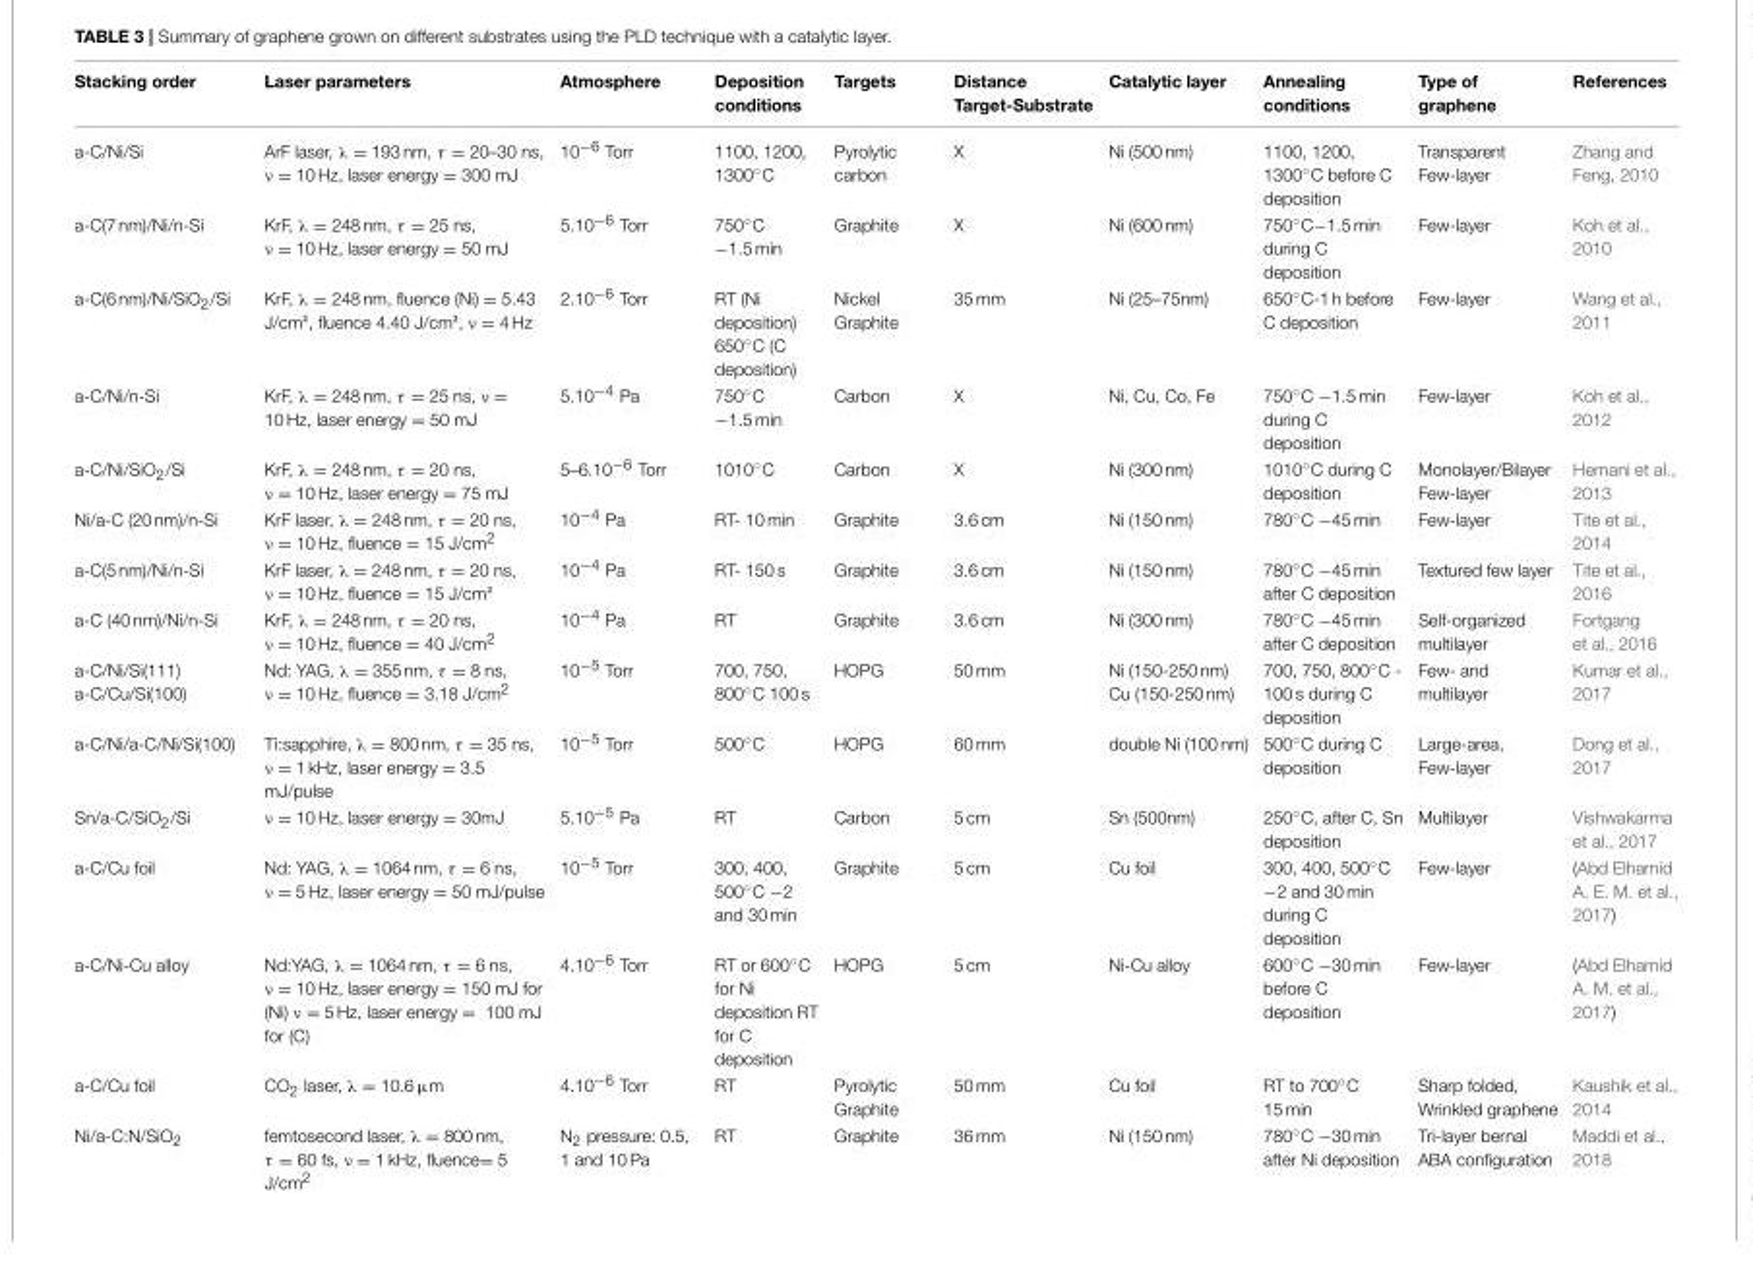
<table><thead><tr><td>Stacking order</td><td>Laser parameters</td><td>Atmosphere</td><td>Deposition conditions</td><td>Targets</td><td>Distance Target-Substrate</td><td>Catalytic layer</td><td>Annealing conditions</td><td>Type of graphene</td><td>References</td></tr></thead><tbody><tr><td>a-C/Ni/Si</td><td>ArF laser, λ = 193 nm, τ = 20–30 ns, ν = 10 Hz, laser energy = 300 mJ</td><td>10<sup>−6</sup> Torr</td><td>1100, 1200, 1300◦C</td><td>Pyrolytic carbon</td><td>X</td><td>Ni (500 nm)</td><td>1100, 1200, 1300◦C before C deposition</td><td>Transparent Few-layer</td><td>Zhang and Feng, 2010</td></tr><tr><td>a-C(7 nm)/Ni/n-Si</td><td>KrF, λ = 248 nm, τ = 25 ns, ν = 10 Hz, laser energy = 50 mJ</td><td>5.10<sup>−6</sup> Torr</td><td>750◦C −1.5 min</td><td>Graphite</td><td>X</td><td>Ni (600 nm)</td><td>750◦C−1.5 min during C deposition</td><td>Few-layer</td><td>Koh et al., 2010</td></tr><tr><td>a-C(6 nm)/Ni/SiO<sub>2</sub>/Si</td><td>KrF, λ = 248 nm, fluence (Ni) = 5.43 J/cm², fluence 4.40 J/cm², ν = 4 Hz</td><td>2.10<sup>−6</sup> Torr</td><td>RT (Ni deposition) 650◦C (C deposition)</td><td>Nickel Graphite</td><td>35 mm</td><td>Ni (25–75nm)</td><td>650◦C-1 h before C deposition</td><td>Few-layer</td><td>Wang et al., 2011</td></tr><tr><td>a-C/Ni/n-Si</td><td>KrF, λ = 248 nm, τ = 25 ns, ν = 10 Hz, laser energy = 50 mJ</td><td>5.10<sup>−4</sup> Pa</td><td>750◦C −1.5 min</td><td>Carbon</td><td>X</td><td>Ni, Cu, Co, Fe</td><td>750◦C −1.5 min during C deposition</td><td>Few-layer</td><td>Koh et al., 2012</td></tr><tr><td>a-C/Ni/SiO<sub>2</sub>/Si</td><td>KrF, λ = 248 nm, τ = 20 ns, ν = 10 Hz, laser energy = 75 mJ</td><td>5–6.10<sup>−6</sup> Torr</td><td>1010◦C</td><td>Carbon</td><td>X</td><td>Ni (300 nm)</td><td>1010◦C during C deposition</td><td>Monolayer/Bilayer Few-layer</td><td>Hemani et al., 2013</td></tr><tr><td>Ni/a-C (20 nm)/n-Si</td><td>KrF laser, λ = 248 nm, τ = 20 ns, ν = 10 Hz, fluence = 15 J/cm<sup>2</sup></td><td>10<sup>−4</sup> Pa</td><td>RT- 10 min</td><td>Graphite</td><td>3.6 cm</td><td>Ni (150 nm)</td><td>780◦C −45 min</td><td>Few-layer</td><td>Tite et al., 2014</td></tr><tr><td>a-C(5 nm)/Ni/n-Si</td><td>KrF laser, λ = 248 nm, τ = 20 ns, ν = 10 Hz, fluence = 15 J/cm²</td><td>10<sup>−4</sup> Pa</td><td>RT- 150 s</td><td>Graphite</td><td>3.6 cm</td><td>Ni (150 nm)</td><td>780◦C −45 min after C deposition</td><td>Textured few layer</td><td>Tite et al., 2016</td></tr><tr><td>a-C (40 nm)/Ni/n-Si</td><td>KrF, λ = 248 nm, τ = 20 ns, ν = 10 Hz, fluence = 40 J/cm<sup>2</sup></td><td>10<sup>−4</sup> Pa</td><td>RT</td><td>Graphite</td><td>3.6 cm</td><td>Ni (300 nm)</td><td>780◦C −45 min after C deposition</td><td>Self-organized multilayer</td><td>Fortgang et al., 2016</td></tr><tr><td>a-C/Ni/Si(111) a-C/Cu/Si(100)</td><td>Nd: YAG, λ = 355 nm, τ = 8 ns, ν = 10 Hz, fluence = 3.18 J/cm<sup>2</sup></td><td>10<sup>−5</sup> Torr</td><td>700, 750, 800◦C 100 s</td><td>HOPG</td><td>50 mm</td><td>Ni (150-250 nm) Cu (150-250 nm)</td><td>700, 750, 800◦C - 100 s during C deposition</td><td>Few- and multilayer</td><td>Kumar et al., 2017</td></tr><tr><td>a-C/Ni/a-C/Ni/Si(100)</td><td>Ti:sapphire, λ = 800 nm, τ = 35 ns, ν = 1 kHz, laser energy = 3.5 mJ/pulse</td><td>10<sup>−5</sup> Torr</td><td>500◦C</td><td>HOPG</td><td>60 mm</td><td>double Ni (100 nm)</td><td>500◦C during C deposition</td><td>Large-area, Few-layer</td><td>Dong et al., 2017</td></tr><tr><td>Sn/a-C/SiO<sub>2</sub>/Si</td><td>ν = 10 Hz, laser energy = 30mJ</td><td>5.10<sup>−5</sup> Pa</td><td>RT</td><td>Carbon</td><td>5 cm</td><td>Sn (500nm)</td><td>250◦C, after C, Sn deposition</td><td>Multilayer</td><td>Vishwakarma et al., 2017</td></tr><tr><td>a-C/Cu foil</td><td>Nd: YAG, λ = 1064 nm, τ = 6 ns, ν = 5 Hz, laser energy = 50 mJ/pulse</td><td>10<sup>−5</sup> Torr</td><td>300, 400, 500◦C −2 and 30 min</td><td>Graphite</td><td>5 cm</td><td>Cu foil</td><td>300, 400, 500◦C −2 and 30 min during C deposition</td><td>Few-layer</td><td>(Abd Elhamid A. E. M. et al., 2017)</td></tr><tr><td>a-C/Ni-Cu alloy</td><td>Nd:YAG, λ = 1064 nm, τ = 6 ns, ν = 10 Hz, laser energy = 150 mJ for (Ni) ν = 5 Hz, laser energy = 100 mJ for (C)</td><td>4.10<sup>−6</sup> Torr</td><td>RT or 600◦C for Ni deposition RT for C deposition</td><td>HOPG</td><td>5 cm</td><td>Ni-Cu alloy</td><td>600◦C −30 min before C deposition</td><td>Few-layer</td><td>(Abd Elhamid A. M. et al., 2017)</td></tr><tr><td>a-C/Cu foil</td><td>CO<sub>2</sub> laser, λ = 10.6 µm</td><td>4.10<sup>−6</sup> Torr</td><td>RT</td><td>Pyrolytic Graphite</td><td>50 mm</td><td>Cu foil</td><td>RT to 700◦C 15 min</td><td>Sharp folded, Wrinkled graphene</td><td>Kaushik et al., 2014</td></tr><tr><td>Ni/a-C:N/SiO<sub>2</sub></td><td>femtosecond laser, λ = 800 nm, τ = 60 fs, ν = 1 kHz, fluence= 5 J/cm<sup>2</sup></td><td>N<sub>2</sub> pressure: 0.5, 1 and 10 Pa</td><td>RT</td><td>Graphite</td><td>36 mm</td><td>Ni (150 nm)</td><td>780◦C −30 min after Ni deposition</td><td>Tri-layer bernal ABA configuration</td><td>Maddi et al., 2018</td></tr></tbody></table>